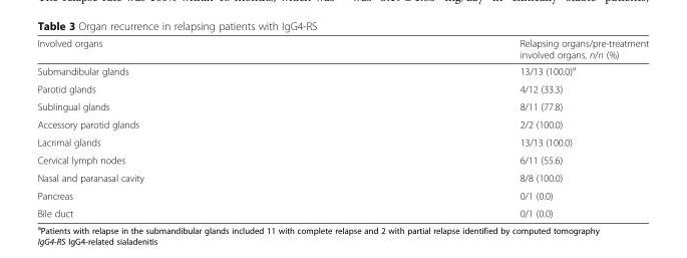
<table><thead><tr><td>Involved organs</td><td>Relapsing organs/pre-treatment involved organs, n/n (%)</td></tr></thead><tbody><tr><td>Submandibular glands</td><td>13/13 (100.0)<sup>a</sup></td></tr><tr><td>Parotid glands</td><td>4/12 (33.3)</td></tr><tr><td>Sublingual glands</td><td>8/11 (77.8)</td></tr><tr><td>Accessory parotid glands</td><td>2/2 (100.0)</td></tr><tr><td>Lacrimal glands</td><td>13/13 (100.0)</td></tr><tr><td>Cervical lymph nodes</td><td>6/11 (55.6)</td></tr><tr><td>Nasal and paranasal cavity</td><td>8/8 (100.0)</td></tr><tr><td>Pancreas</td><td>0/1 (0.0)</td></tr><tr><td>Bile duct</td><td>0/1 (0.0)</td></tr></tbody></table>